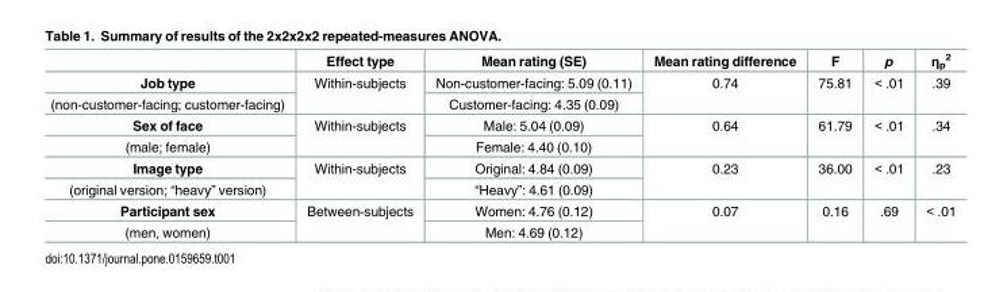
<table><thead><tr><td></td><td>Effect type</td><td>Mean rating (SE)</td><td>Mean rating difference</td><td>F</td><td>p</td><td>η<sub>p</sub> <sup>2</sup></td></tr></thead><tbody><tr><td>Job type</td><td rowspan="2">Within-subjects</td><td>Non-customer-facing: 5.09 (0.11)</td><td rowspan="2">0.74</td><td rowspan="2">75.81</td><td rowspan="2">&lt; .01</td><td rowspan="2">.39</td></tr><tr><td>(non-customer-facing; customer-facing)</td><td>Customer-facing: 4.35 (0.09)</td></tr><tr><td>Sex of face</td><td rowspan="2">Within-subjects</td><td>Male: 5.04 (0.09)</td><td rowspan="2">0.64</td><td rowspan="2">61.79</td><td rowspan="2">&lt; .01</td><td rowspan="2">.34</td></tr><tr><td>(male; female)</td><td>Female: 4.40 (0.10)</td></tr><tr><td>Image type</td><td rowspan="2">Within-subjects</td><td>Original: 4.84 (0.09)</td><td rowspan="2">0.23</td><td rowspan="2">36.00</td><td rowspan="2">&lt; .01</td><td rowspan="2">.23</td></tr><tr><td>(original version; “heavy” version)</td><td>“Heavy”: 4.61 (0.09)</td></tr><tr><td>Participant sex</td><td rowspan="2">Between-subjects</td><td>Women: 4.76 (0.12)</td><td rowspan="2">0.07</td><td rowspan="2">0.16</td><td rowspan="2">.69</td><td rowspan="2">&lt; .01</td></tr><tr><td>(men, women)</td><td>Men: 4.69 (0.12)</td></tr></tbody></table>